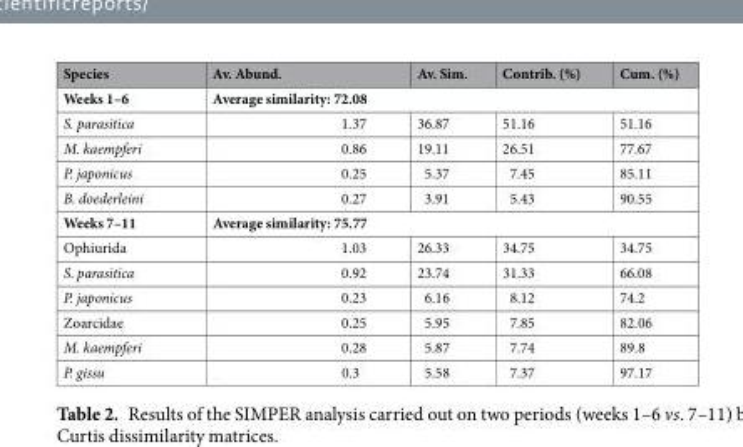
<table><thead><tr><td>Species</td><td>Av. Abund.</td><td>Av. Sim.</td><td>Contrib. (%)</td><td>Cum. (%)</td></tr></thead><tbody><tr><td>Weeks 1–6</td><td colspan="4">Average similarity: 72.08</td></tr><tr><td>S. parasitica</td><td>1.37</td><td>36.87</td><td>51.16</td><td>51.16</td></tr><tr><td>M. kaempferi</td><td>0.86</td><td>19.11</td><td>26.51</td><td>77.67</td></tr><tr><td>P. japonicus</td><td>0.25</td><td>5.37</td><td>7.45</td><td>85.11</td></tr><tr><td>B. doederleini</td><td>0.27</td><td>3.91</td><td>5.43</td><td>90.55</td></tr><tr><td>Weeks 7–11</td><td colspan="4">Average similarity: 75.77</td></tr><tr><td>Ophiurida</td><td>1.03</td><td>26.33</td><td>34.75</td><td>34.75</td></tr><tr><td>S. parasitica</td><td>0.92</td><td>23.74</td><td>31.33</td><td>66.08</td></tr><tr><td>P. japonicus</td><td>0.23</td><td>6.16</td><td>8.12</td><td>74.2</td></tr><tr><td>Zoarcidae</td><td>0.25</td><td>5.95</td><td>7.85</td><td>82.06</td></tr><tr><td>M. kaempferi</td><td>0.28</td><td>5.87</td><td>7.74</td><td>89.8</td></tr><tr><td>P. gissu</td><td>0.3</td><td>5.58</td><td>7.37</td><td>97.17</td></tr></tbody></table>